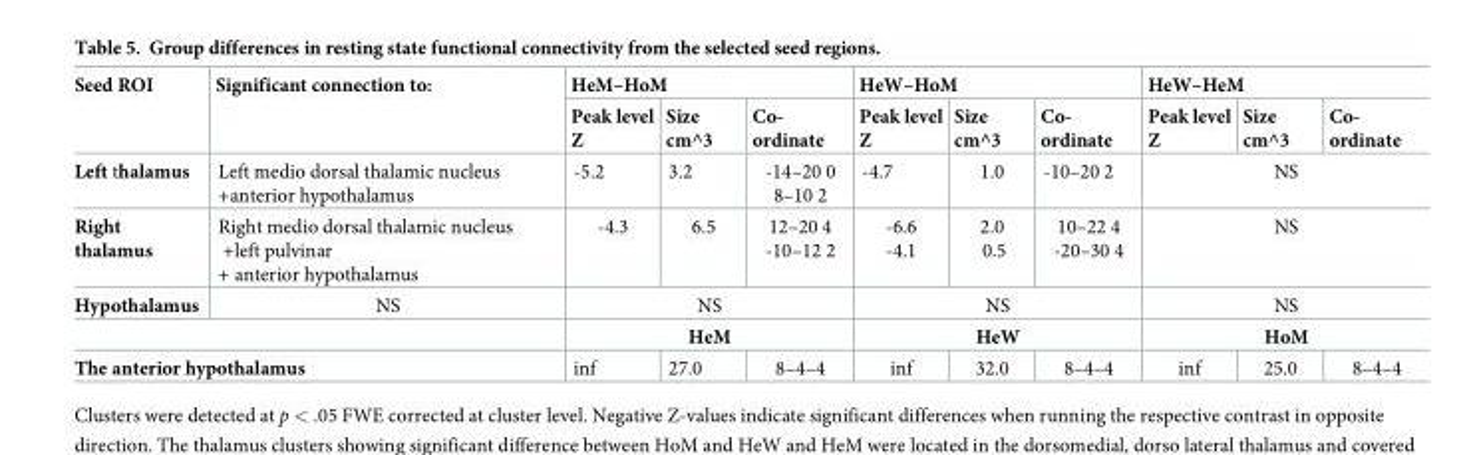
<table><thead><tr><td rowspan="2">Seed ROI</td><td rowspan="2">Significant connection to:</td><td colspan="3">HeM–HoM</td><td colspan="3">HeW–HoM</td><td colspan="3">HeW–HeM</td></tr><tr><td>Peak level Z</td><td>Size cm^3</td><td>Co- ordinate</td><td>Peak level Z</td><td>Size cm^3</td><td>Co- ordinate</td><td>Peak level Z</td><td>Size cm^3</td><td>Co- ordinate</td></tr></thead><tbody><tr><td>Left thalamus</td><td>Left medio dorsal thalamic nucleus +anterior hypothalamus</td><td>-5.2</td><td>3.2</td><td>-14–20 0 8–10 2</td><td>-4.7</td><td>1.0</td><td>-10–20 2</td><td colspan="3">NS</td></tr><tr><td>Right thalamus</td><td>Right medio dorsal thalamic nucleus +left pulvinar + anterior hypothalamus</td><td>-4.3</td><td>6.5</td><td>12–20 4 -10–12 2</td><td>-6.6 -4.1</td><td>2.0 0.5</td><td>10–22 4 -20–30 4</td><td colspan="3">NS</td></tr><tr><td>Hypothalamus</td><td>NS</td><td colspan="3">NS</td><td colspan="3">NS</td><td colspan="3">NS</td></tr><tr><td colspan="2"></td><td colspan="3">HeM</td><td colspan="3">HeW</td><td colspan="3">HoM</td></tr><tr><td colspan="2">The anterior hypothalamus</td><td>inf</td><td>27.0</td><td>8–4–4</td><td>inf</td><td>32.0</td><td>8–4–4</td><td>inf</td><td>25.0</td><td>8–4–4</td></tr></tbody></table>